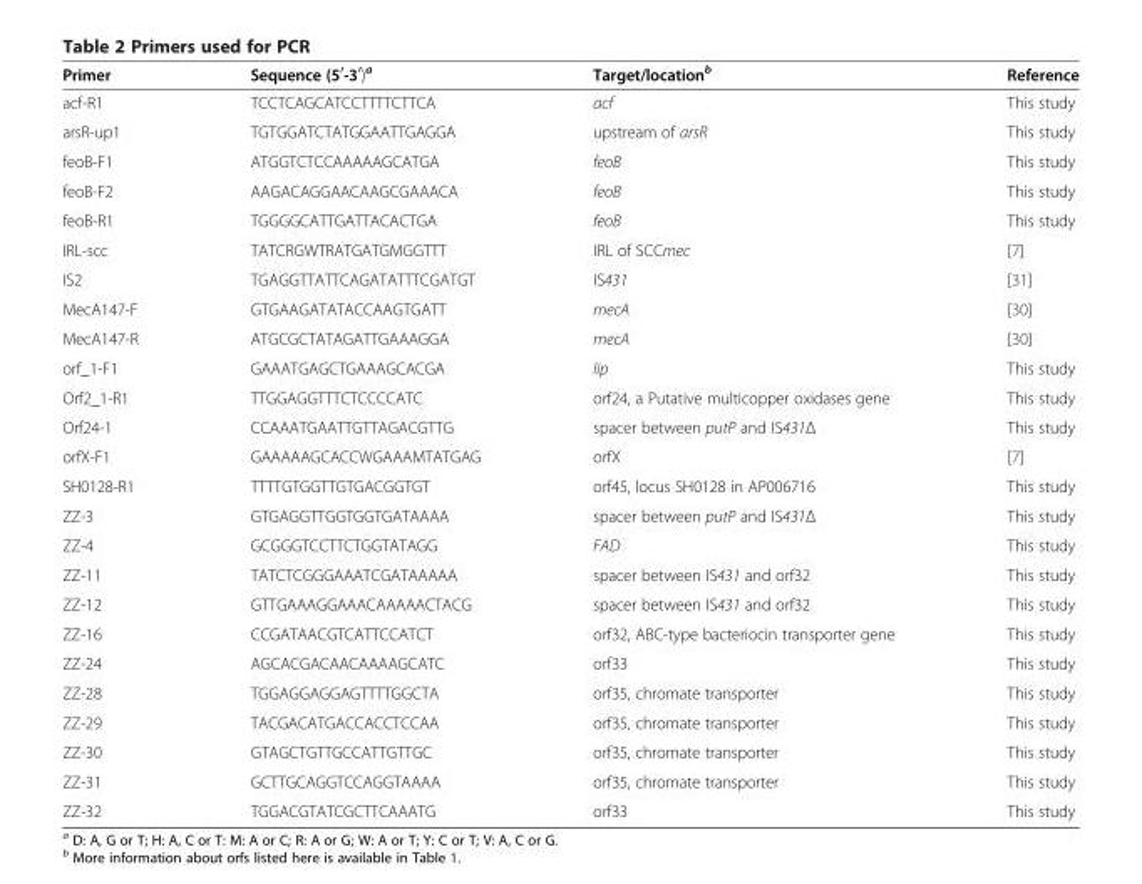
<table><thead><tr><td>Primer</td><td>Sequence (5<sup>′</sup>-3<sup>′</sup>)<sup>a</sup></td><td>Target/location<sup>b</sup></td><td>Reference</td></tr></thead><tbody><tr><td>acf-R1</td><td>TCCTCAGCATCCTTTTCTTCA</td><td>acf</td><td>This study</td></tr><tr><td>arsR-up1</td><td>TGTGGATCTATGGAATTGAGGA</td><td>upstream of arsR</td><td>This study</td></tr><tr><td>feoB-F1</td><td>ATGGTCTCCAAAAAGCATGA</td><td>feoB</td><td>This study</td></tr><tr><td>feoB-F2</td><td>AAGACAGGAACAAGCGAAACA</td><td>feoB</td><td>This study</td></tr><tr><td>feoB-R1</td><td>TGGGGCATTGATTACACTGA</td><td>feoB</td><td>This study</td></tr><tr><td>IRL-scc</td><td>TATCRGWTRATGATGMGGTTT</td><td>IRL of SCCmec</td><td>[7]</td></tr><tr><td>IS2</td><td>TGAGGTTATTCAGATATTTCGATGT</td><td>IS431</td><td>[31]</td></tr><tr><td>MecA147-F</td><td>GTGAAGATATACCAAGTGATT</td><td>mecA</td><td>[30]</td></tr><tr><td>MecA147-R</td><td>ATGCGCTATAGATTGAAAGGA</td><td>mecA</td><td>[30]</td></tr><tr><td>orf_1-F1</td><td>GAAATGAGCTGAAAGCACGA</td><td>lip</td><td>This study</td></tr><tr><td>Orf2_1-R1</td><td>TTGGAGGTTTCTCCCCATC</td><td>orf24, a Putative multicopper oxidases gene</td><td>This study</td></tr><tr><td>Orf24-1</td><td>CCAAATGAATTGTTAGACGTTG</td><td>spacer between putP and IS431Δ</td><td>This study</td></tr><tr><td>orfX-F1</td><td>GAAAAAGCACCWGAAAMTATGAG</td><td>orfX</td><td>[7]</td></tr><tr><td>SH0128-R1</td><td>TTTTGTGGTTGTGACGGTGT</td><td>orf45, locus SH0128 in AP006716</td><td>This study</td></tr><tr><td>ZZ-3</td><td>GTGAGGTTGGTGGTGATAAAA</td><td>spacer between putP and IS431Δ</td><td>This study</td></tr><tr><td>ZZ-4</td><td>GCGGGTCCTTCTGGTATAGG</td><td>FAD</td><td>This study</td></tr><tr><td>ZZ-11</td><td>TATCTCGGGAAATCGATAAAAA</td><td>spacer between IS431 and orf32</td><td>This study</td></tr><tr><td>ZZ-12</td><td>GTTGAAAGGAAACAAAAACTACG</td><td>spacer between IS431 and orf32</td><td>This study</td></tr><tr><td>ZZ-16</td><td>CCGATAACGTCATTCCATCT</td><td>orf32, ABC-type bacteriocin transporter gene</td><td>This study</td></tr><tr><td>ZZ-24</td><td>AGCACGACAACAAAAGCATC</td><td>orf33</td><td>This study</td></tr><tr><td>ZZ-28</td><td>TGGAGGAGGAGTTTTGGCTA</td><td>orf35, chromate transporter</td><td>This study</td></tr><tr><td>ZZ-29</td><td>TACGACATGACCACCTCCAA</td><td>orf35, chromate transporter</td><td>This study</td></tr><tr><td>ZZ-30</td><td>GTAGCTGTTGCCATTGTTGC</td><td>orf35, chromate transporter</td><td>This study</td></tr><tr><td>ZZ-31</td><td>GCTTGCAGGTCCAGGTAAAA</td><td>orf35, chromate transporter</td><td>This study</td></tr><tr><td>ZZ-32</td><td>TGGACGTATCGCTTCAAATG</td><td>orf33</td><td>This study</td></tr></tbody></table>